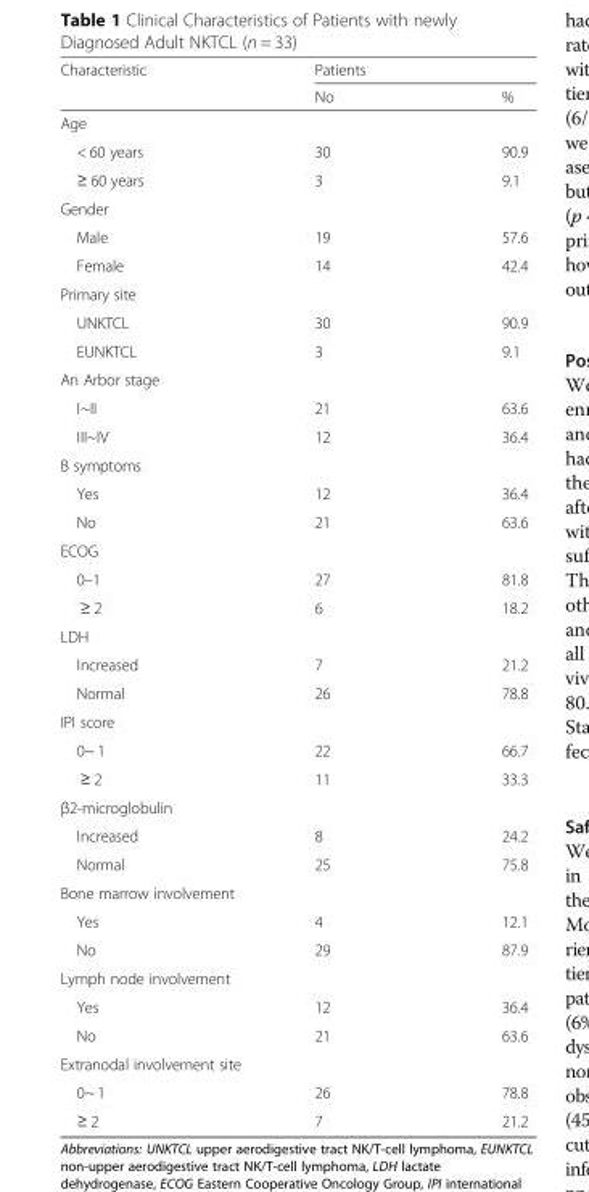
<table><thead><tr><td rowspan="2">Characteristic</td><td colspan="2">Patients</td></tr><tr><td>No</td><td>%</td></tr></thead><tbody><tr><td colspan="3">Age</td></tr><tr><td>&lt; 60 years</td><td>30</td><td>90.9</td></tr><tr><td>≥ 60 years</td><td>3</td><td>9.1</td></tr><tr><td colspan="3">Gender</td></tr><tr><td>Male</td><td>19</td><td>57.6</td></tr><tr><td>Female</td><td>14</td><td>42.4</td></tr><tr><td colspan="3">Primary site</td></tr><tr><td>UNKTCL</td><td>30</td><td>90.9</td></tr><tr><td>EUNKTCL</td><td>3</td><td>9.1</td></tr><tr><td colspan="3">An Arbor stage</td></tr><tr><td>I~II</td><td>21</td><td>63.6</td></tr><tr><td>III~IV</td><td>12</td><td>36.4</td></tr><tr><td colspan="3">B symptoms</td></tr><tr><td>Yes</td><td>12</td><td>36.4</td></tr><tr><td>No</td><td>21</td><td>63.6</td></tr><tr><td colspan="3">ECOG</td></tr><tr><td>0–1</td><td>27</td><td>81.8</td></tr><tr><td>≥ 2</td><td>6</td><td>18.2</td></tr><tr><td colspan="3">LDH</td></tr><tr><td>Increased</td><td>7</td><td>21.2</td></tr><tr><td>Normal</td><td>26</td><td>78.8</td></tr><tr><td colspan="3">IPI score</td></tr><tr><td>0~ 1</td><td>22</td><td>66.7</td></tr><tr><td>≥ 2</td><td>11</td><td>33.3</td></tr><tr><td colspan="3">β2-microglobulin</td></tr><tr><td>Increased</td><td>8</td><td>24.2</td></tr><tr><td>Normal</td><td>25</td><td>75.8</td></tr><tr><td colspan="3">Bone marrow involvement</td></tr><tr><td>Yes</td><td>4</td><td>12.1</td></tr><tr><td>No</td><td>29</td><td>87.9</td></tr><tr><td colspan="3">Lymph node involvement</td></tr><tr><td>Yes</td><td>12</td><td>36.4</td></tr><tr><td>No</td><td>21</td><td>63.6</td></tr><tr><td colspan="3">Extranodal involvement site</td></tr><tr><td>0~ 1</td><td>26</td><td>78.8</td></tr><tr><td>≥ 2</td><td>7</td><td>21.2</td></tr></tbody></table>